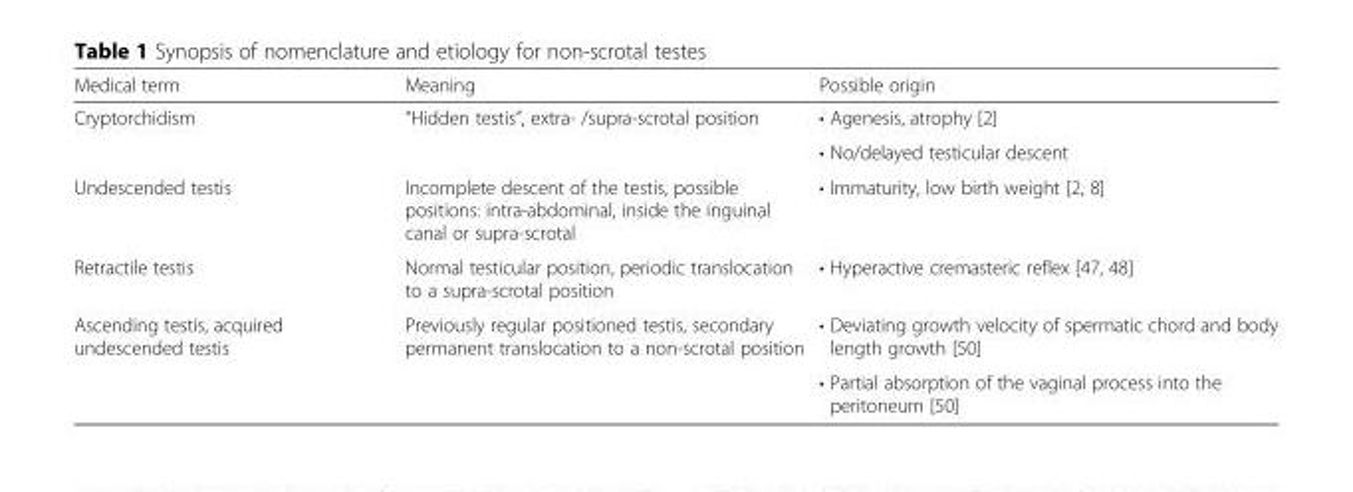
<table><thead><tr><td>Medical term</td><td>Meaning</td><td>Possible origin</td></tr></thead><tbody><tr><td rowspan="2">Cryptorchidism</td><td rowspan="2">“Hidden testis”, extra- /supra-scrotal position</td><td>• Agenesis, atrophy [2]</td></tr><tr><td>• No/delayed testicular descent</td></tr><tr><td>Undescended testis</td><td>Incomplete descent of the testis, possible positions: intra-abdominal, inside the inguinal canal or supra-scrotal</td><td>• Immaturity, low birth weight [2, 8]</td></tr><tr><td>Retractile testis</td><td>Normal testicular position, periodic translocation to a supra-scrotal position</td><td>• Hyperactive cremasteric reflex [47, 48]</td></tr><tr><td rowspan="2">Ascending testis, acquired undescended testis</td><td rowspan="2">Previously regular positioned testis, secondary permanent translocation to a non-scrotal position</td><td>• Deviating growth velocity of spermatic chord and body length growth [50]</td></tr><tr><td>• Partial absorption of the vaginal process into the peritoneum [50]</td></tr></tbody></table>